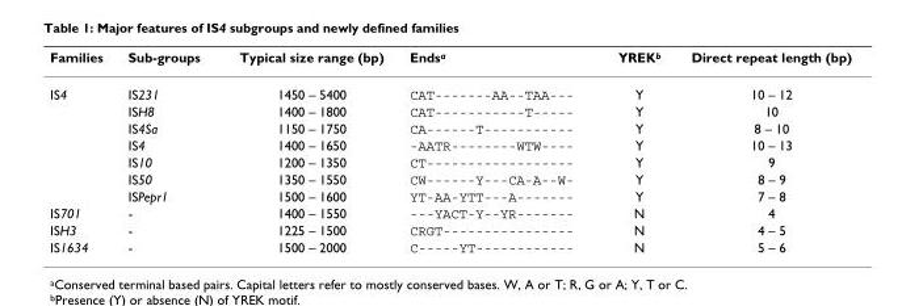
<table><thead><tr><td>Families</td><td>Sub-groups</td><td>Typical size range (bp)</td><td>Ends<sup>a</sup></td><td>YREK<sup>b</sup></td><td>Direct repeat length (bp)</td></tr></thead><tbody><tr><td rowspan="7">IS4</td><td>IS231</td><td>1450 – 5400</td><td>CAT-------AA--TAA---</td><td>Y</td><td>10 – 12</td></tr><tr><td>ISH8</td><td>1400 – 1800</td><td>CAT-----------T-----</td><td>Y</td><td>10</td></tr><tr><td>IS4Sa</td><td>1150 – 1750</td><td>CA------T-----------</td><td>Y</td><td>8 – 10</td></tr><tr><td>IS4</td><td>1400 – 1650</td><td>-AATR--------WTW----</td><td>Y</td><td>10 – 13</td></tr><tr><td>IS10</td><td>1200 – 1350</td><td>CT------------------</td><td>Y</td><td>9</td></tr><tr><td>IS50</td><td>1350 – 1550</td><td>CW------Y---CA-A--W-</td><td>Y</td><td>8 – 9</td></tr><tr><td>ISPepr1</td><td>1500 – 1600</td><td>YT-AA-YTT---A-------</td><td>Y</td><td>7 – 8</td></tr><tr><td>IS701</td><td>-</td><td>1400 – 1550</td><td>---YACT-Y--YR-------</td><td>N</td><td>4</td></tr><tr><td>ISH3</td><td>-</td><td>1225 – 1500</td><td>CRGT----------------</td><td>N</td><td>4 – 5</td></tr><tr><td>IS1634</td><td>-</td><td>1500 – 2000</td><td>C-----YT------------</td><td>N</td><td>5 – 6</td></tr></tbody></table>